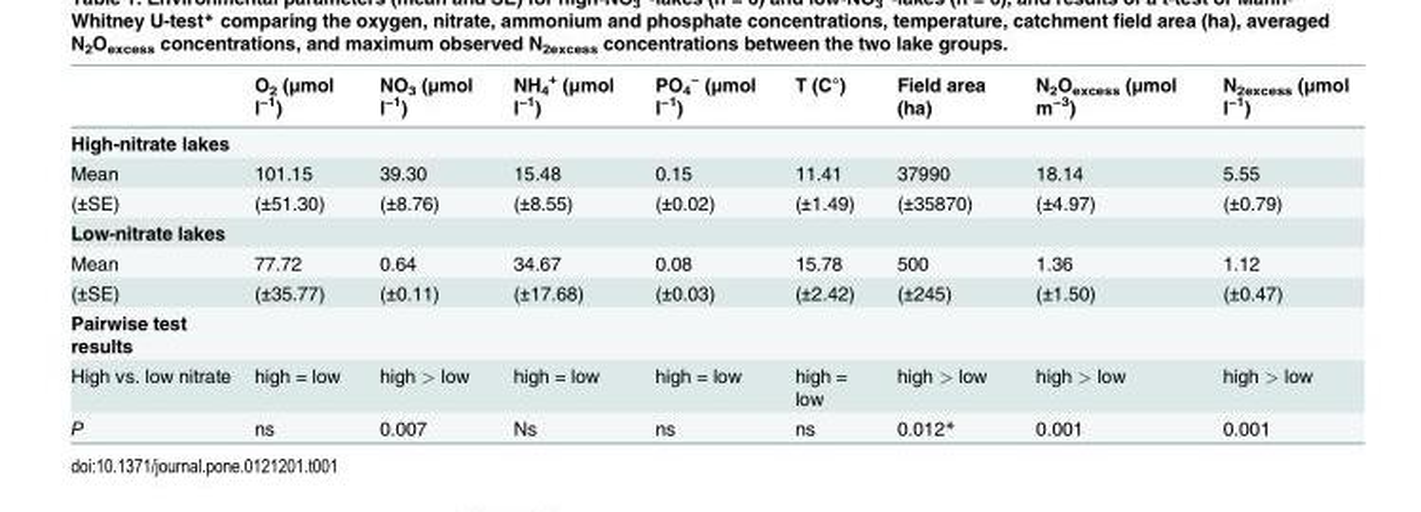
<table><thead><tr><td></td><td>O<sub>2</sub> (μmol l<sup>−1</sup>)</td><td>NO<sub>3</sub> (μmol l<sup>−1</sup>)</td><td>NH<sub>4</sub> <sup>+</sup> (μmol l<sup>−1</sup>)</td><td>PO<sub>4</sub> <sup>−</sup> (μmol l<sup>−1</sup>)</td><td>T (C°)</td><td>Field area (ha)</td><td>N<sub>2</sub>O<sub>excess</sub> (μmol m<sup>−3</sup>)</td><td>N<sub>2excess</sub> (μmol l<sup>−1</sup>)</td></tr></thead><tbody><tr><td colspan="9">High-nitrate lakes</td></tr><tr><td>Mean</td><td>101.15</td><td>39.30</td><td>15.48</td><td>0.15</td><td>11.41</td><td>37990</td><td>18.14</td><td>5.55</td></tr><tr><td>(±SE)</td><td>(±51.30)</td><td>(±8.76)</td><td>(±8.55)</td><td>(±0.02)</td><td>(±1.49)</td><td>(±35870)</td><td>(±4.97)</td><td>(±0.79)</td></tr><tr><td colspan="9">Low-nitrate lakes</td></tr><tr><td>Mean</td><td>77.72</td><td>0.64</td><td>34.67</td><td>0.08</td><td>15.78</td><td>500</td><td>1.36</td><td>1.12</td></tr><tr><td>(±SE)</td><td>(±35.77)</td><td>(±0.11)</td><td>(±17.68)</td><td>(±0.03)</td><td>(±2.42)</td><td>(±245)</td><td>(±1.50)</td><td>(±0.47)</td></tr><tr><td colspan="9">Pairwise test results</td></tr><tr><td>High vs. low nitrate</td><td>high = low</td><td>high &gt; low</td><td>high = low</td><td>high = low</td><td>high = low</td><td>high &gt; low</td><td>high &gt; low</td><td>high &gt; low</td></tr><tr><td>P</td><td>ns</td><td>0.007</td><td>Ns</td><td>ns</td><td>ns</td><td>0.012*</td><td>0.001</td><td>0.001</td></tr></tbody></table>